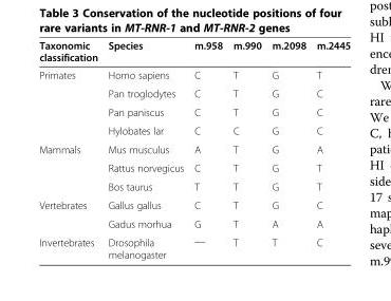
<table><thead><tr><td>Taxonomic classification</td><td>Species</td><td>m.958</td><td>m.990</td><td>m.2098</td><td>m.2445</td></tr></thead><tbody><tr><td rowspan="4">Primates</td><td>Homo sapiens</td><td>C</td><td>T</td><td>G</td><td>T</td></tr><tr><td>Pan troglodytes</td><td>C</td><td>T</td><td>G</td><td>C</td></tr><tr><td>Pan paniscus</td><td>C</td><td>T</td><td>G</td><td>C</td></tr><tr><td>Hylobates lar</td><td>C</td><td>C</td><td>G</td><td>C</td></tr><tr><td rowspan="3">Mammals</td><td>Mus musculus</td><td>A</td><td>T</td><td>G</td><td>A</td></tr><tr><td>Rattus norvegicus</td><td>C</td><td>T</td><td>G</td><td>T</td></tr><tr><td>Bos taurus</td><td>T</td><td>T</td><td>G</td><td>T</td></tr><tr><td rowspan="2">Vertebrates</td><td>Gallus gallus</td><td>C</td><td>T</td><td>G</td><td>C</td></tr><tr><td>Gadus morhua</td><td>G</td><td>T</td><td>A</td><td>A</td></tr><tr><td>Invertebrates</td><td>Drosophila melanogaster</td><td>─</td><td>T</td><td>T</td><td>C</td></tr></tbody></table>